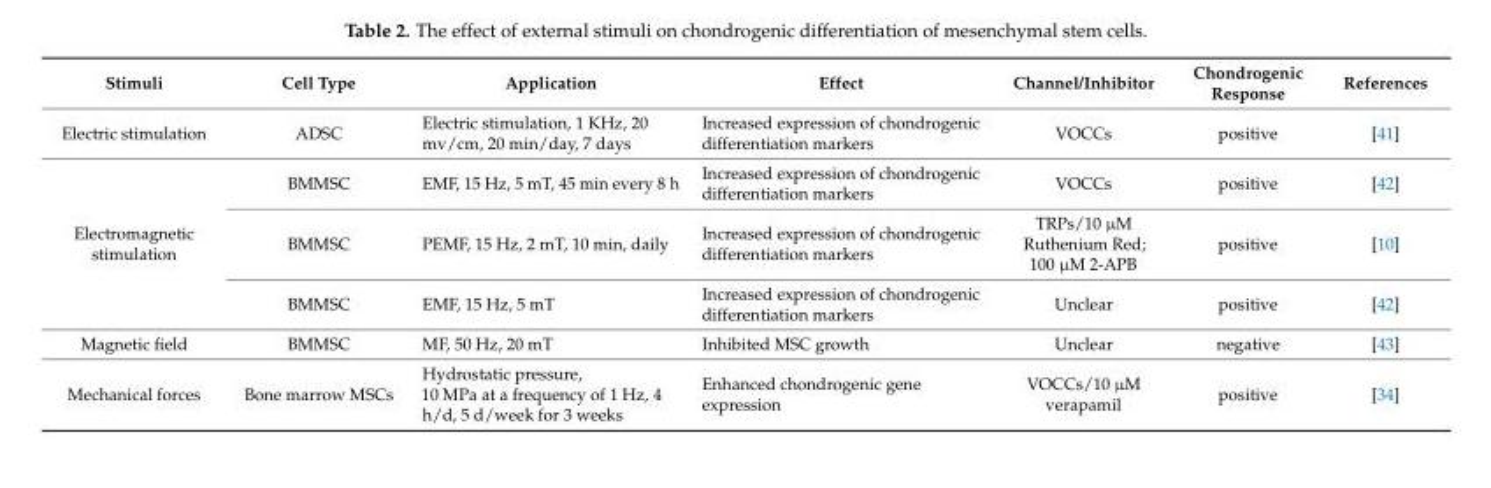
<table><thead><tr><td>Stimuli</td><td>Cell Type</td><td>Application</td><td>Effect</td><td>Channel/Inhibitor</td><td>Chondrogenic Response</td><td>References</td></tr></thead><tbody><tr><td>Electric stimulation</td><td>ADSC</td><td>Electric stimulation, 1 KHz, 20 mv/cm, 20 min/day, 7 days</td><td>Increased expression of chondrogenic differentiation markers</td><td>VOCCs</td><td>positive</td><td>[41]</td></tr><tr><td rowspan="3">Electromagnetic stimulation</td><td>BMMSC</td><td>EMF, 15 Hz, 5 mT, 45 min every 8 h</td><td>Increased expression of chondrogenic differentiation markers</td><td>VOCCs</td><td>positive</td><td>[42]</td></tr><tr><td>BMMSC</td><td>PEMF, 15 Hz, 2 mT, 10 min, daily</td><td>Increased expression of chondrogenic differentiation markers</td><td>TRPs/10 µM Ruthenium Red; 100 µM 2-APB</td><td>positive</td><td>[10]</td></tr><tr><td>BMMSC</td><td>EMF, 15 Hz, 5 mT</td><td>Increased expression of chondrogenic differentiation markers</td><td>Unclear</td><td>positive</td><td>[42]</td></tr><tr><td>Magnetic field</td><td>BMMSC</td><td>MF, 50 Hz, 20 mT</td><td>Inhibited MSC growth</td><td>Unclear</td><td>negative</td><td>[43]</td></tr><tr><td>Mechanical forces</td><td>Bone marrow MSCs</td><td>Hydrostatic pressure, 10 MPa at a frequency of 1 Hz, 4 h/d, 5 d/week for 3 weeks</td><td>Enhanced chondrogenic gene expression</td><td>VOCCs/10 µM verapamil</td><td>positive</td><td>[34]</td></tr></tbody></table>